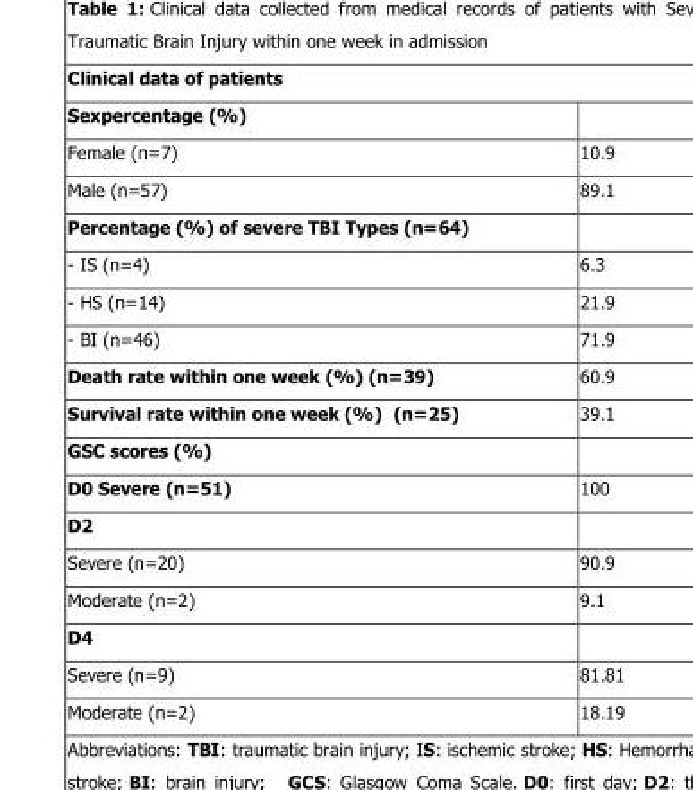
<table><thead><tr><td colspan="2">Clinical data of patients</td></tr><tr><td>Sexpercentage (%)</td><td></td></tr></thead><tbody><tr><td>Female (n=7)</td><td>10.9</td></tr><tr><td>Male (n=57)</td><td>89.1</td></tr><tr><td colspan="2">Percentage (%) of severe TBI Types (n=64)</td></tr><tr><td>- IS (n=4)</td><td>6.3</td></tr><tr><td>- HS (n=14)</td><td>21.9</td></tr><tr><td>- BI (n=46)</td><td>71.9</td></tr><tr><td>Death rate within one week (%) (n=39)</td><td>60.9</td></tr><tr><td>Survival rate within one week (%) (n=25)</td><td>39.1</td></tr><tr><td colspan="2">GSC scores (%)</td></tr><tr><td>D0 Severe (n=51)</td><td>100</td></tr><tr><td colspan="2">D2</td></tr><tr><td>Severe (n=20)</td><td>90.9</td></tr><tr><td>Moderate (n=2)</td><td>9.1</td></tr><tr><td colspan="2">D4</td></tr><tr><td>Severe (n=9)</td><td>81.81</td></tr><tr><td>Moderate (n=2)</td><td>18.19</td></tr></tbody></table>